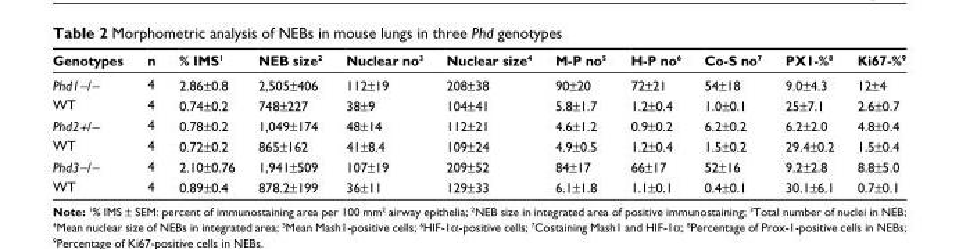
<table><thead><tr><td>Genotypes</td><td>n</td><td>% IMS<sup>1</sup></td><td>NEB size<sup>2</sup></td><td>Nuclear no<sup>3</sup></td><td>Nuclear size<sup>4</sup></td><td>M-P no<sup>5</sup></td><td>H-P no<sup>6</sup></td><td>Co-S no<sup>7</sup></td><td>PX1-%<sup>8</sup></td><td>Ki67-%<sup>9</sup></td></tr></thead><tbody><tr><td>Phd1-/-</td><td>4</td><td>2.86±0.8</td><td>2,505±406</td><td>112±19</td><td>208±38</td><td>90±20</td><td>72±21</td><td>54±18</td><td>9.0±4.3</td><td>12±4</td></tr><tr><td>WT</td><td>4</td><td>0.74±0.2</td><td>748±227</td><td>38±9</td><td>104±41</td><td>5.8±1.7</td><td>1.2±0.4</td><td>1.0±0.1</td><td>25±7.1</td><td>2.6±0.7</td></tr><tr><td>Phd2+/-</td><td>4</td><td>0.78±0.2</td><td>1,049±174</td><td>48±14</td><td>112±21</td><td>4.6±1.2</td><td>0.9±0.2</td><td>6.2±0.2</td><td>6.2±2.0</td><td>4.8±0.4</td></tr><tr><td>WT</td><td>4</td><td>0.72±0.2</td><td>865±162</td><td>41±8.4</td><td>109±24</td><td>4.9±0.5</td><td>1.2±0.4</td><td>1.5±0.2</td><td>29.4±0.2</td><td>1.5±0.4</td></tr><tr><td>Phd3-/-</td><td>4</td><td>2.10±0.76</td><td>1,941±509</td><td>107±19</td><td>209±52</td><td>84±17</td><td>66±17</td><td>52±16</td><td>9.2±2.8</td><td>8.8±5.0</td></tr><tr><td>WT</td><td>4</td><td>0.89±0.4</td><td>878.2±199</td><td>36±11</td><td>129±33</td><td>6.1±1.8</td><td>1.1±0.1</td><td>0.4±0.1</td><td>30.1±6.1</td><td>0.7±0.1</td></tr></tbody></table>